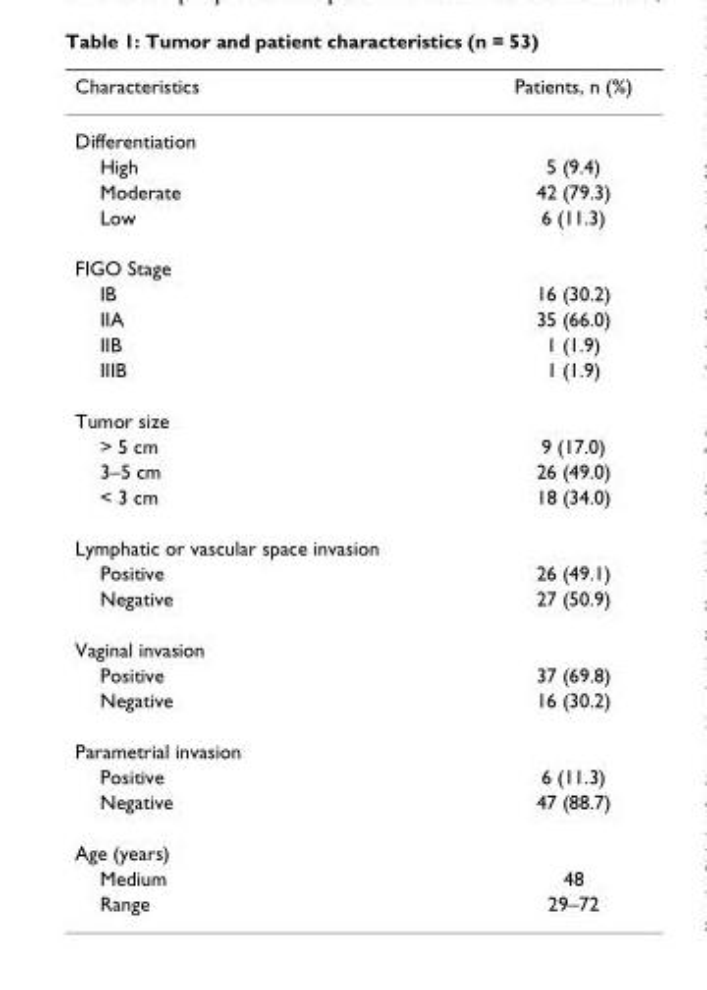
<table><thead><tr><td>Characteristics</td><td>Patients, n (%)</td></tr></thead><tbody><tr><td colspan="2">Differentiation</td></tr><tr><td>High</td><td>5 (9.4)</td></tr><tr><td>Moderate</td><td>42 (79.3)</td></tr><tr><td>Low</td><td>6 (11.3)</td></tr><tr><td colspan="2">FIGO Stage</td></tr><tr><td>IB</td><td>16 (30.2)</td></tr><tr><td>IIA</td><td>35 (66.0)</td></tr><tr><td>IIB</td><td>1 (1.9)</td></tr><tr><td>IIIB</td><td>1 (1.9)</td></tr><tr><td colspan="2">Tumor size</td></tr><tr><td>&gt; 5 cm</td><td>9 (17.0)</td></tr><tr><td>3–5 cm</td><td>26 (49.0)</td></tr><tr><td>&lt; 3 cm</td><td>18 (34.0)</td></tr><tr><td colspan="2">Lymphatic or vascular space invasion</td></tr><tr><td>Positive</td><td>26 (49.1)</td></tr><tr><td>Negative</td><td>27 (50.9)</td></tr><tr><td colspan="2">Vaginal invasion</td></tr><tr><td>Positive</td><td>37 (69.8)</td></tr><tr><td>Negative</td><td>16 (30.2)</td></tr><tr><td colspan="2">Parametrial invasion</td></tr><tr><td>Positive</td><td>6 (11.3)</td></tr><tr><td>Negative</td><td>47 (88.7)</td></tr><tr><td colspan="2">Age (years)</td></tr><tr><td>Medium</td><td>48</td></tr><tr><td>Range</td><td>29–72</td></tr></tbody></table>